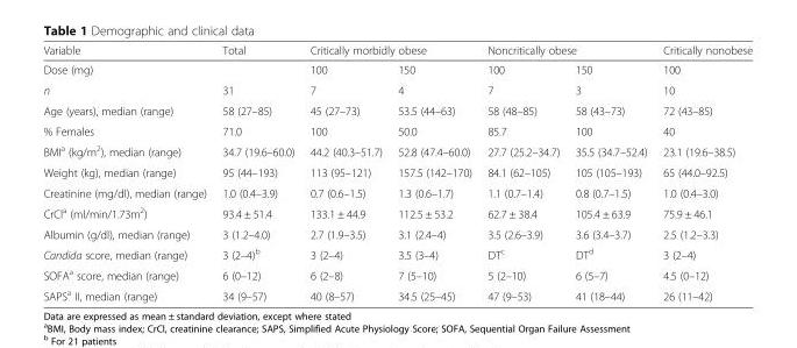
<table><thead><tr><td rowspan="2">Variable Dose (mg)</td><td rowspan="2">Total</td><td colspan="2">Critically morbidly obese</td><td colspan="2">Noncritically obese</td><td rowspan="2">Critically nonobese 100</td></tr><tr><td>100</td><td>150</td><td>100</td><td>150</td></tr></thead><tbody><tr><td>n</td><td>31</td><td>7</td><td>4</td><td>7</td><td>3</td><td>10</td></tr><tr><td>Age (years), median (range)</td><td>58 (27–85)</td><td>45 (27–73)</td><td>53.5 (44–63)</td><td>58 (48–85)</td><td>58 (43–73)</td><td>72 (43–85)</td></tr><tr><td>% Females</td><td>71.0</td><td>100</td><td>50.0</td><td>85.7</td><td>100</td><td>40</td></tr><tr><td>BMI<sup>a</sup> (kg/m<sup>2</sup>), median (range)</td><td>34.7 (19.6–60.0)</td><td>44.2 (40.3–51.7)</td><td>52.8 (47.4–60.0)</td><td>27.7 (25.2–34.7)</td><td>35.5 (34.7–52.4)</td><td>23.1 (19.6–38.5)</td></tr><tr><td>Weight (kg), median (range)</td><td>95 (44–193)</td><td>113 (95–121)</td><td>157.5 (142–170)</td><td>84.1 (62–105)</td><td>105 (105–193)</td><td>65 (44.0–92.5)</td></tr><tr><td>Creatinine (mg/dl), median (range)</td><td>1.0 (0.4–3.9)</td><td>0.7 (0.6–1.5)</td><td>1.3 (0.6–1.7)</td><td>1.1 (0.7–1.4)</td><td>0.8 (0.7–1.5)</td><td>1.0 (0.4–3.0)</td></tr><tr><td>CrCl<sup>a</sup> (ml/min/1.73m<sup>2</sup>)</td><td>93.4 ± 51.4</td><td>133.1 ± 44.9</td><td>112.5 ± 53.2</td><td>62.7 ± 38.4</td><td>105.4 ± 63.9</td><td>75.9 ± 46.1</td></tr><tr><td>Albumin (g/dl), median (range)</td><td>3 (1.2–4.0)</td><td>2.7 (1.9–3.5)</td><td>3.1 (2.4–4)</td><td>3.5 (2.6–3.9)</td><td>3.6 (3.4–3.7)</td><td>2.5 (1.2–3.3)</td></tr><tr><td>Candida score, median (range)</td><td>3 (2–4)<sup>b</sup></td><td>3 (2–4)</td><td>3.5 (3–4)</td><td>DT<sup>c</sup></td><td>DT<sup>d</sup></td><td>3 (2–4)</td></tr><tr><td>SOFA<sup>a</sup> score, median (range)</td><td>6 (0–12)</td><td>6 (2–8)</td><td>7 (5–10)</td><td>5 (2–10)</td><td>6 (5–7)</td><td>4.5 (0–12)</td></tr><tr><td>SAPS<sup>a</sup> II, median (range)</td><td>34 (9–57)</td><td>40 (8–57)</td><td>34.5 (25–45)</td><td>47 (9–53)</td><td>41 (18–44)</td><td>26 (11–42)</td></tr></tbody></table>